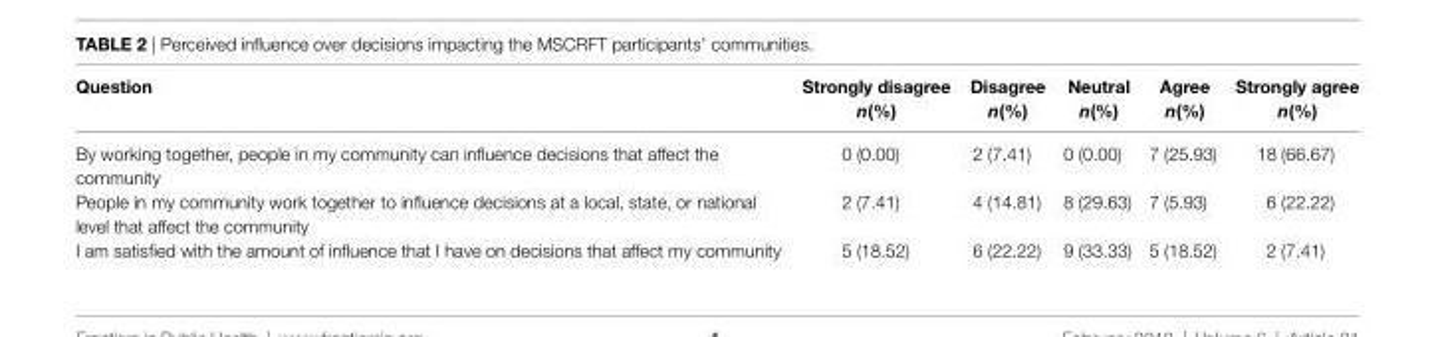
<table><thead><tr><td>Question</td><td>Strongly disagree n(%)</td><td>Disagree n(%)</td><td>neutral n(%)</td><td>agree n(%)</td><td>Strongly agree n(%)</td></tr></thead><tbody><tr><td>By working together, people in my community can influence decisions that affect the community</td><td>0 (0.00)</td><td>2 (7.41)</td><td>0 (0.00)</td><td>7 (25.93)</td><td>18 (66.67)</td></tr><tr><td>People in my community work together to influence decisions at a local, state, or national level that affect the community</td><td>2 (7.41)</td><td>4 (14.81)</td><td>8 (29.63)</td><td>7 (5.93)</td><td>6 (22.22)</td></tr><tr><td>I am satisfied with the amount of influence that I have on decisions that affect my community</td><td>5 (18.52)</td><td>6 (22.22)</td><td>9 (33.33)</td><td>5 (18.52)</td><td>2 (7.41)</td></tr></tbody></table>